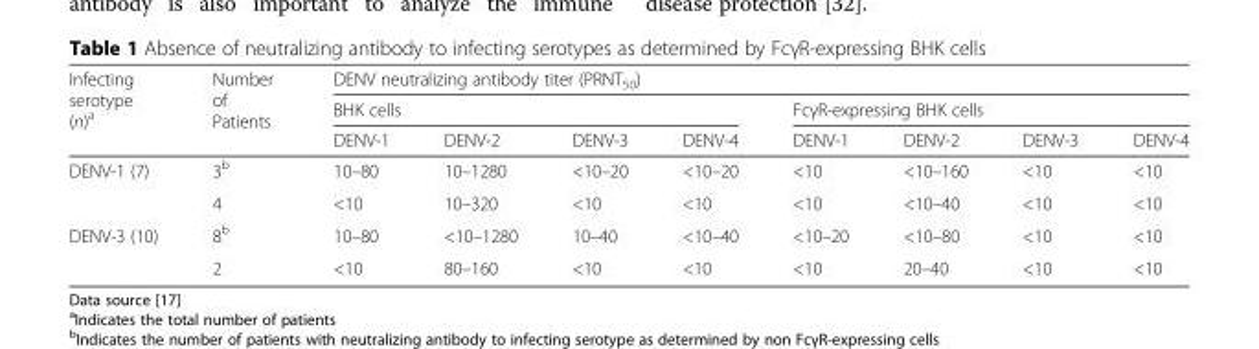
<table><thead><tr><td rowspan="3">Infecting serotype (n)<sup>a</sup></td><td rowspan="3">Number of Patients</td><td colspan="8">DENV neutralizing antibody titer (PRNT<sub>50</sub>)</td></tr><tr><td colspan="4">BHK cells</td><td colspan="4">FcγR-expressing BHK cells</td></tr><tr><td>DENV-1</td><td>DENV-2</td><td>DENV-3</td><td>DENV-4</td><td>DENV-1</td><td>DENV-2</td><td>DENV-3</td><td>DENV-4</td></tr></thead><tbody><tr><td rowspan="2">DENV-1 (7)</td><td>3<sup>b</sup></td><td>10–80</td><td>10–1280</td><td>&lt;10–20</td><td>&lt;10–20</td><td>&lt;10</td><td>&lt;10–160</td><td>&lt;10</td><td>&lt;10</td></tr><tr><td>4</td><td>&lt;10</td><td>10–320</td><td>&lt;10</td><td>&lt;10</td><td>&lt;10</td><td>&lt;10–40</td><td>&lt;10</td><td>&lt;10</td></tr><tr><td rowspan="2">DENV-3 (10)</td><td>8<sup>b</sup></td><td>10–80</td><td>&lt;10–1280</td><td>10–40</td><td>&lt;10–40</td><td>&lt;10–20</td><td>&lt;10–80</td><td>&lt;10</td><td>&lt;10</td></tr><tr><td>2</td><td>&lt;10</td><td>80–160</td><td>&lt;10</td><td>&lt;10</td><td>&lt;10</td><td>20–40</td><td>&lt;10</td><td>&lt;10</td></tr></tbody></table>